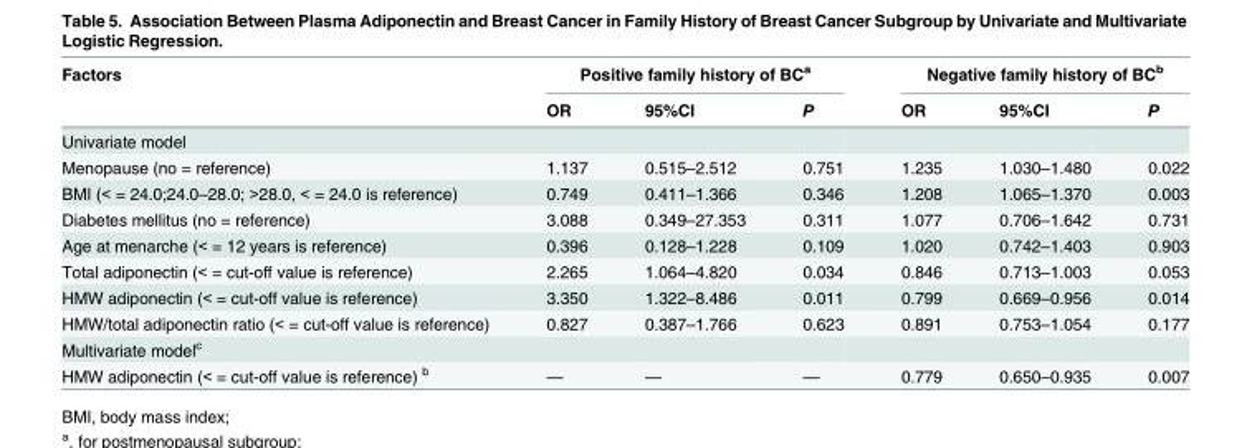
<table><thead><tr><td rowspan="2">Factors</td><td colspan="3">Positive family history of BC<sup>a</sup></td><td colspan="3">Negative family history of BC<sup>b</sup></td></tr><tr><td>OR</td><td>95%CI</td><td>P</td><td>OR</td><td>95%CI</td><td>P</td></tr></thead><tbody><tr><td colspan="7">Univariate model</td></tr><tr><td>Menopause (no = reference)</td><td>1.137</td><td>0.515–2.512</td><td>0.751</td><td>1.235</td><td>1.030–1.480</td><td>0.022</td></tr><tr><td>BMI (&lt; = 24.0;24.0–28.0; &gt;28.0, &lt; = 24.0 is reference)</td><td>0.749</td><td>0.411–1.366</td><td>0.346</td><td>1.208</td><td>1.065–1.370</td><td>0.003</td></tr><tr><td>Diabetes mellitus (no = reference)</td><td>3.088</td><td>0.349–27.353</td><td>0.311</td><td>1.077</td><td>0.706–1.642</td><td>0.731</td></tr><tr><td>Age at menarche (&lt; = 12 years is reference)</td><td>0.396</td><td>0.128–1.228</td><td>0.109</td><td>1.020</td><td>0.742–1.403</td><td>0.903</td></tr><tr><td>Total adiponectin (&lt; = cut-off value is reference)</td><td>2.265</td><td>1.064–4.820</td><td>0.034</td><td>0.846</td><td>0.713–1.003</td><td>0.053</td></tr><tr><td>HMW adiponectin (&lt; = cut-off value is reference)</td><td>3.350</td><td>1.322–8.486</td><td>0.011</td><td>0.799</td><td>0.669–0.956</td><td>0.014</td></tr><tr><td>HMW/total adiponectin ratio (&lt; = cut-off value is reference)</td><td>0.827</td><td>0.387–1.766</td><td>0.623</td><td>0.891</td><td>0.753–1.054</td><td>0.177</td></tr><tr><td colspan="7">Multivariate model<sup>c</sup></td></tr><tr><td>HMW adiponectin (&lt; = cut-off value is reference) <sup>b</sup></td><td>—</td><td>—</td><td>—</td><td>0.779</td><td>0.650–0.935</td><td>0.007</td></tr></tbody></table>